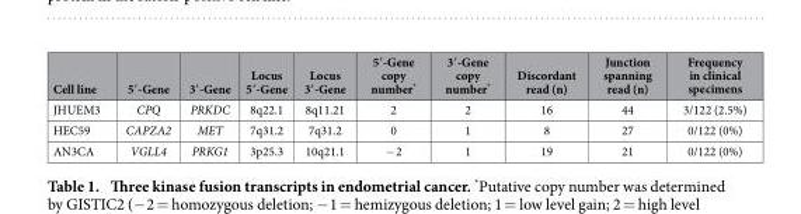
<table><thead><tr><td>Cell line</td><td>5′-Gene</td><td>3′-Gene</td><td>Locus 5′-Gene</td><td>Locus 3′-Gene</td><td>5′-Gene copy number*</td><td>3′-Gene copy number*</td><td>Discordant read (n)</td><td>Junction spanning read (n)</td><td>Frequency in clinical specimens</td></tr></thead><tbody><tr><td>JHUEM3</td><td>CPQ</td><td>PRKDC</td><td>8q22.1</td><td>8q11.21</td><td>2</td><td>2</td><td>16</td><td>44</td><td>3/122 (2.5%)</td></tr><tr><td>HEC59</td><td>CAPZA2</td><td>MET</td><td>7q31.2</td><td>7q31.2</td><td>0</td><td>1</td><td>8</td><td>27</td><td>0/122 (0%)</td></tr><tr><td>AN3CA</td><td>VGLL4</td><td>PRKG1</td><td>3p25.3</td><td>10q21.1</td><td>− 2</td><td>1</td><td>19</td><td>21</td><td>0/122 (0%)</td></tr></tbody></table>